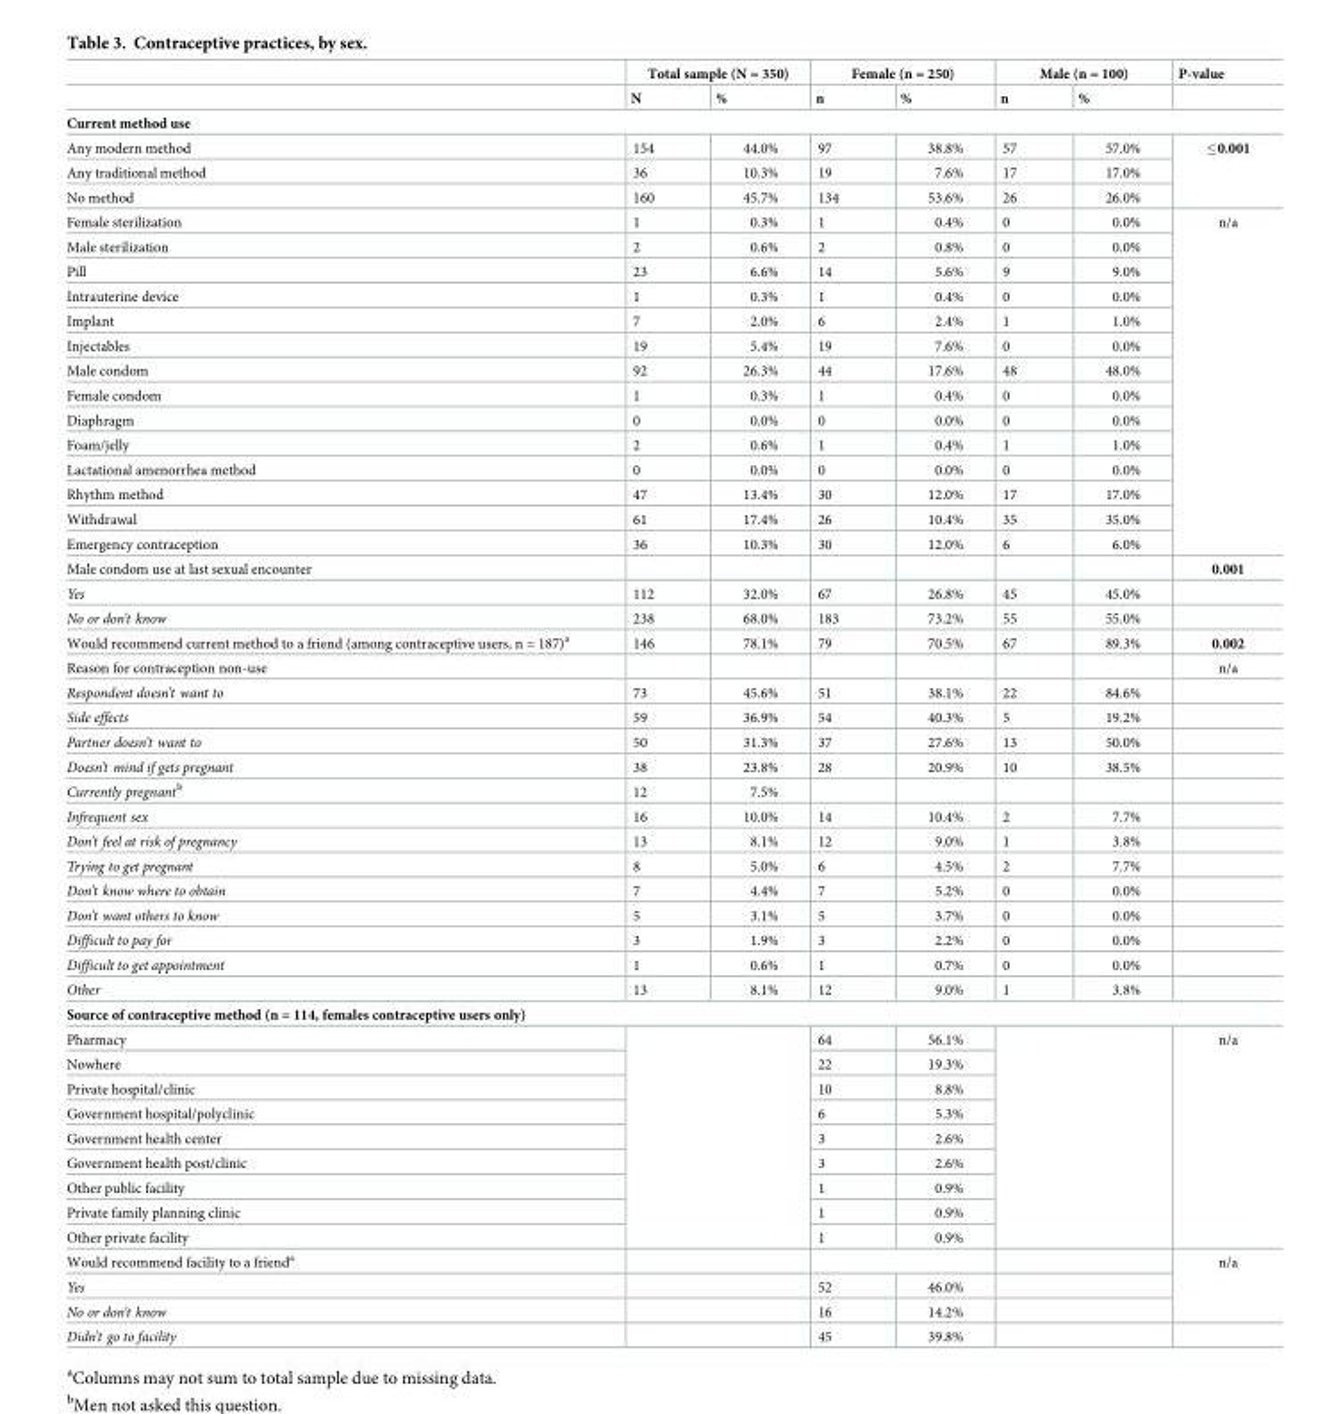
<table><thead><tr><td rowspan="2"></td><td colspan="2">Total sample (N = 350)</td><td colspan="2">Female (n = 250)</td><td colspan="2">Male (n = 100)</td><td rowspan="2">P-value</td></tr><tr><td>N</td><td>%</td><td>n</td><td>%</td><td>n</td><td>%</td></tr></thead><tbody><tr><td colspan="8">Current method use</td></tr><tr><td>Any modern method</td><td>154</td><td>44.0%</td><td>97</td><td>38.8%</td><td>57</td><td>57.0%</td><td rowspan="3">≤0.001</td></tr><tr><td>Any traditional method</td><td>36</td><td>10.3%</td><td>19</td><td>7.6%</td><td>17</td><td>17.0%</td></tr><tr><td>No method</td><td>160</td><td>45.7%</td><td>134</td><td>53.6%</td><td>26</td><td>26.0%</td></tr><tr><td>Female sterilization</td><td>1</td><td>0.3%</td><td>1</td><td>0.4%</td><td>0</td><td>0.0%</td><td rowspan="14">n/a</td></tr><tr><td>Male sterilization</td><td>2</td><td>0.6%</td><td>2</td><td>0.8%</td><td>0</td><td>0.0%</td></tr><tr><td>Pill</td><td>23</td><td>6.6%</td><td>14</td><td>5.6%</td><td>9</td><td>9.0%</td></tr><tr><td>Intrauterine device</td><td>1</td><td>0.3%</td><td>1</td><td>0.4%</td><td>0</td><td>0.0%</td></tr><tr><td>Implant</td><td>7</td><td>2.0%</td><td>6</td><td>2.4%</td><td>1</td><td>1.0%</td></tr><tr><td>Injectables</td><td>19</td><td>5.4%</td><td>19</td><td>7.6%</td><td>0</td><td>0.0%</td></tr><tr><td>Male condom</td><td>92</td><td>26.3%</td><td>44</td><td>17.6%</td><td>48</td><td>48.0%</td></tr><tr><td>Female condom</td><td>1</td><td>0.3%</td><td>1</td><td>0.4%</td><td>0</td><td>0.0%</td></tr><tr><td>Diaphragm</td><td>0</td><td>0.0%</td><td>0</td><td>0.0%</td><td>0</td><td>0.0%</td></tr><tr><td>Foam/jelly</td><td>2</td><td>0.6%</td><td>1</td><td>0.4%</td><td>1</td><td>1.0%</td></tr><tr><td>Lactational amenorrhea method</td><td>0</td><td>0.0%</td><td>0</td><td>0.0%</td><td>0</td><td>0.0%</td></tr><tr><td>Rhythm method</td><td>47</td><td>13.4%</td><td>30</td><td>12.0%</td><td>17</td><td>17.0%</td></tr><tr><td>Withdrawal</td><td>61</td><td>17.4%</td><td>26</td><td>10.4%</td><td>35</td><td>35.0%</td></tr><tr><td>Emergency contraception</td><td>36</td><td>10.3%</td><td>30</td><td>12.0%</td><td>6</td><td>6.0%</td></tr><tr><td>Male condom use at last sexual encounter</td><td></td><td></td><td></td><td></td><td></td><td></td><td>0.001</td></tr><tr><td>Yes</td><td>112</td><td>32.0%</td><td>67</td><td>26.8%</td><td>45</td><td>45.0%</td><td></td></tr><tr><td>No or don’t know</td><td>238</td><td>68.0%</td><td>183</td><td>73.2%</td><td>55</td><td>55.0%</td><td></td></tr><tr><td>Would recommend current method to a friend (among contraceptive users, n = 187)<sup>a</sup></td><td>146</td><td>78.1%</td><td>79</td><td>70.5%</td><td>67</td><td>89.3%</td><td>0.002</td></tr><tr><td>Reason for contraception non-use</td><td></td><td></td><td></td><td></td><td></td><td></td><td>n/a</td></tr><tr><td>Respondent doesn’t want to</td><td>73</td><td>45.6%</td><td>51</td><td>38.1%</td><td>22</td><td>84.6%</td><td></td></tr><tr><td>Side effects</td><td>59</td><td>36.9%</td><td>54</td><td>40.3%</td><td>5</td><td>19.2%</td><td></td></tr><tr><td>Partner doesn’t want to</td><td>50</td><td>31.3%</td><td>37</td><td>27.6%</td><td>13</td><td>50.0%</td><td></td></tr><tr><td>Doesn’t mind if gets pregnant</td><td>38</td><td>23.8%</td><td>28</td><td>20.9%</td><td>10</td><td>38.5%</td><td></td></tr><tr><td>Currently pregnant<sup>b</sup></td><td>12</td><td>7.5%</td><td></td><td></td><td></td><td></td><td></td></tr><tr><td>Infrequent sex</td><td>16</td><td>10.0%</td><td>14</td><td>10.4%</td><td>2</td><td>7.7%</td><td></td></tr><tr><td>Don’t feel at risk of pregnancy</td><td>13</td><td>8.1%</td><td>12</td><td>9.0%</td><td>1</td><td>3.8%</td><td></td></tr><tr><td>Trying to get pregnant</td><td>8</td><td>5.0%</td><td>6</td><td>4.5%</td><td>2</td><td>7.7%</td><td></td></tr><tr><td>Don’t know where to obtain</td><td>7</td><td>4.4%</td><td>7</td><td>5.2%</td><td>0</td><td>0.0%</td><td></td></tr><tr><td>Don’t want others to know</td><td>5</td><td>3.1%</td><td>5</td><td>3.7%</td><td>0</td><td>0.0%</td><td></td></tr><tr><td>Difficult to pay for</td><td>3</td><td>1.9%</td><td>3</td><td>2.2%</td><td>0</td><td>0.0%</td><td></td></tr><tr><td>Difficult to get appointment</td><td>1</td><td>0.6%</td><td>1</td><td>0.7%</td><td>0</td><td>0.0%</td><td></td></tr><tr><td>Other</td><td>13</td><td>8.1%</td><td>12</td><td>9.0%</td><td>1</td><td>3.8%</td><td></td></tr><tr><td colspan="8">Source of contraceptive method (n = 114, females contraceptive users only)</td></tr><tr><td>Pharmacy</td><td rowspan="9" colspan="2"></td><td>64</td><td>56.1%</td><td rowspan="9" colspan="2"></td><td rowspan="9">n/a</td></tr><tr><td>Nowhere</td><td>22</td><td>19.3%</td></tr><tr><td>Private hospital/clinic</td><td>10</td><td>8.8%</td></tr><tr><td>Government hospital/polyclinic</td><td>6</td><td>5.3%</td></tr><tr><td>Government health center</td><td>3</td><td>2.6%</td></tr><tr><td>Government health post/clinic</td><td>3</td><td>2.6%</td></tr><tr><td>Other public facility</td><td>1</td><td>0.9%</td></tr><tr><td>Private family planning clinic</td><td>1</td><td>0.9%</td></tr><tr><td>Other private facility</td><td>1</td><td>0.9%</td></tr><tr><td colspan="7">Would recommend facility to a friend<sup>a</sup></td><td rowspan="3">n/a</td></tr><tr><td>Yes</td><td colspan="2"></td><td>52</td><td>46.0%</td><td colspan="2"></td></tr><tr><td>No or don’t know</td><td colspan="2"></td><td>16</td><td>14.2%</td><td colspan="2"></td></tr><tr><td>Didn’t go to facility</td><td colspan="2"></td><td>45</td><td>39.8%</td><td colspan="2"></td><td></td></tr></tbody></table>